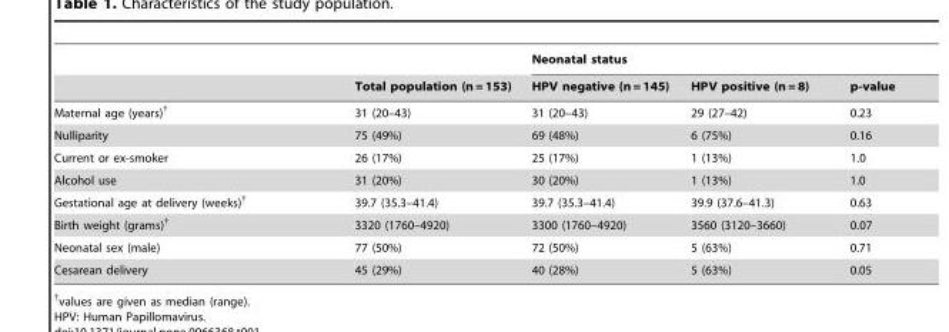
<table><thead><tr><td rowspan="2"></td><td rowspan="2">Total population (n = 153)</td><td colspan="3">Neonatal status</td></tr><tr><td>HPV negative (n = 145)</td><td>HPV positive (n = 8)</td><td>p-value</td></tr></thead><tbody><tr><td>Maternal age (years)†</td><td>31 (20–43)</td><td>31 (20–43)</td><td>29 (27–42)</td><td>0.23</td></tr><tr><td>Nulliparity</td><td>75 (49%)</td><td>69 (48%)</td><td>6 (75%)</td><td>0.16</td></tr><tr><td>Current or ex-smoker</td><td>26 (17%)</td><td>25 (17%)</td><td>1 (13%)</td><td>1.0</td></tr><tr><td>Alcohol use</td><td>31 (20%)</td><td>30 (20%)</td><td>1 (13%)</td><td>1.0</td></tr><tr><td>Gestational age at delivery (weeks)†</td><td>39.7 (35.3–41.4)</td><td>39.7 (35.3–41.4)</td><td>39.9 (37.6–41.3)</td><td>0.63</td></tr><tr><td>Birth weight (grams)†</td><td>3320 (1760–4920)</td><td>3300 (1760–4920)</td><td>3560 (3120–3660)</td><td>0.07</td></tr><tr><td>Neonatal sex (male)</td><td>77 (50%)</td><td>72 (50%)</td><td>5 (63%)</td><td>0.71</td></tr><tr><td>Cesarean delivery</td><td>45 (29%)</td><td>40 (28%)</td><td>5 (63%)</td><td>0.05</td></tr></tbody></table>